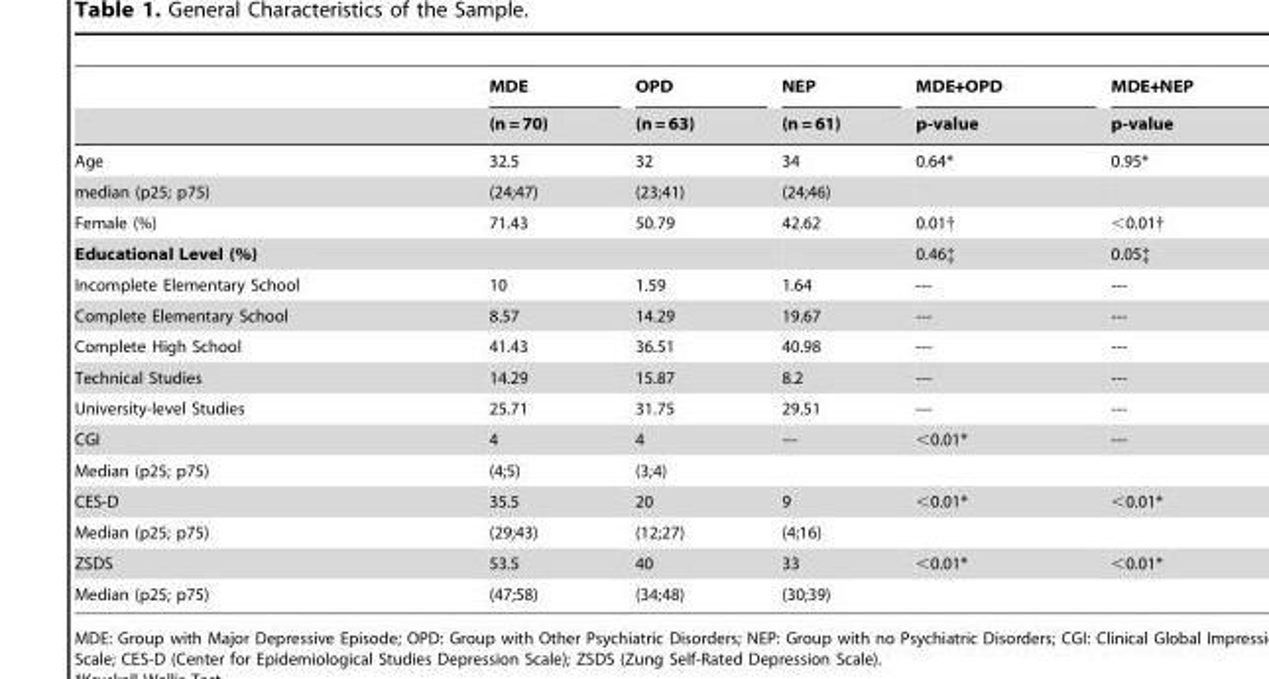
<table><thead><tr><td rowspan="2"></td><td rowspan="2">MDE (n = 70)</td><td rowspan="2">OPD (n = 63)</td><td rowspan="2">NEP (n = 61)</td><td rowspan="2">MDE+OPD p-value</td><td rowspan="2">MDE+NEP p-value</td></tr><tr></tr></thead><tbody><tr><td>Age</td><td>32.5</td><td>32</td><td>34</td><td>0.64*</td><td>0.95*</td></tr><tr><td>median (p25; p75)</td><td>(24;47)</td><td>(23;41)</td><td>(24;46)</td><td></td><td></td></tr><tr><td>Female (%)</td><td>71.43</td><td>50.79</td><td>42.62</td><td>0.01†</td><td>&lt;0.01†</td></tr><tr><td colspan="2">Educational Level (%)</td><td></td><td></td><td>0.46‡</td><td>0.05‡</td></tr><tr><td>Incomplete Elementary School</td><td>10</td><td>1.59</td><td>1.64</td><td>---</td><td>---</td></tr><tr><td>Complete Elementary School</td><td>8.57</td><td>14.29</td><td>19.67</td><td>---</td><td>---</td></tr><tr><td>Complete High School</td><td>41.43</td><td>36.51</td><td>40.98</td><td>---</td><td>---</td></tr><tr><td>Technical Studies</td><td>14.29</td><td>15.87</td><td>8.2</td><td>---</td><td>---</td></tr><tr><td>University-level Studies</td><td>25.71</td><td>31.75</td><td>29.51</td><td>---</td><td>---</td></tr><tr><td>CGI</td><td>4</td><td>4</td><td>---</td><td>&lt;0.01*</td><td>---</td></tr><tr><td>Median (p25; p75)</td><td>(4;5)</td><td>(3;4)</td><td></td><td></td><td></td></tr><tr><td>CES-D</td><td>35.5</td><td>20</td><td>9</td><td>&lt;0.01*</td><td>&lt;0.01*</td></tr><tr><td>Median (p25; p75)</td><td>(29;43)</td><td>(12;27)</td><td>(4;16)</td><td></td><td></td></tr><tr><td>ZSDS</td><td>53.5</td><td>40</td><td>33</td><td>&lt;0.01*</td><td>&lt;0.01*</td></tr><tr><td>Median (p25; p75)</td><td>(47;58)</td><td>(34;48)</td><td>(30;39)</td><td></td><td></td></tr></tbody></table>